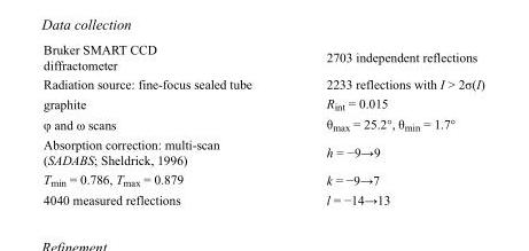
<table><tbody><tr><td>Bruker SMART CCD diffractometer</td><td>2703 independent reflections</td></tr><tr><td>Radiation source: fine-focus sealed tube</td><td>2233 reflections with I &gt; 2σ(I)</td></tr><tr><td>graphite</td><td>R<sub>int</sub> = 0.015</td></tr><tr><td>φ and ω scans</td><td>θ<sub>max</sub> = 25.2°, θ<sub>min</sub> = 1.7°</td></tr><tr><td>Absorption correction: multi-scan (SADABS; Sheldrick, 1996)</td><td>h = −9→9</td></tr><tr><td>T<sub>min</sub> = 0.786, T<sub>max</sub> = 0.879</td><td>k = −9→7</td></tr><tr><td>4040 measured reflections</td><td>l = −14→13</td></tr></tbody></table>